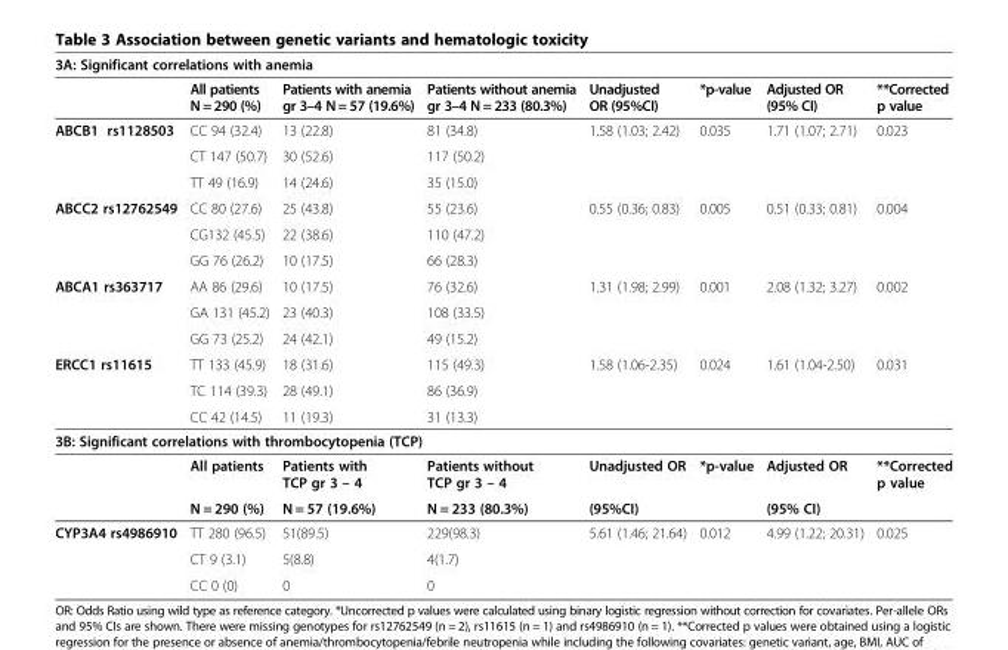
<table><thead><tr><td colspan="8">3A: Significant correlations with anemia</td></tr><tr><td></td><td>All patients N = 290 (%)</td><td>Patients with anemia gr 3–4 N = 57 (19.6%)</td><td>Patients without anemia gr 3–4 N = 233 (80.3%)</td><td>Unadjusted OR (95%CI)</td><td>*p-value</td><td>Adjusted OR (95% CI)</td><td>**Corrected p value</td></tr></thead><tbody><tr><td rowspan="3">ABCB1 rs1128503</td><td>CC 94 (32.4)</td><td>13 (22.8)</td><td>81 (34.8)</td><td rowspan="3">1.58 (1.03; 2.42)</td><td rowspan="3">0.035</td><td rowspan="3">1.71 (1.07; 2.71)</td><td>0.023</td></tr><tr><td>CT 147 (50.7)</td><td>30 (52.6)</td><td>117 (50.2)</td><td></td></tr><tr><td>TT 49 (16.9)</td><td>14 (24.6)</td><td>35 (15.0)</td><td></td></tr><tr><td rowspan="3">ABCC2 rs12762549</td><td>CC 80 (27.6)</td><td>25 (43.8)</td><td>55 (23.6)</td><td>0.55 (0.36; 0.83)</td><td>0.005</td><td>0.51 (0.33; 0.81)</td><td>0.004</td></tr><tr><td>CG132 (45.5)</td><td>22 (38.6)</td><td>110 (47.2)</td><td></td><td></td><td></td><td></td></tr><tr><td>GG 76 (26.2)</td><td>10 (17.5)</td><td>66 (28.3)</td><td></td><td></td><td></td><td></td></tr><tr><td rowspan="3">ABCA1 rs363717</td><td>AA 86 (29.6)</td><td>10 (17.5)</td><td>76 (32.6)</td><td>1.31 (1.98; 2.99)</td><td>0.001</td><td>2.08 (1.32; 3.27)</td><td>0.002</td></tr><tr><td>GA 131 (45.2)</td><td>23 (40.3)</td><td>108 (33.5)</td><td></td><td></td><td></td><td></td></tr><tr><td>GG 73 (25.2)</td><td>24 (42.1)</td><td>49 (15.2)</td><td></td><td></td><td></td><td></td></tr><tr><td rowspan="3">ERCC1 rs11615</td><td>TT 133 (45.9)</td><td>18 (31.6)</td><td>115 (49.3)</td><td>1.58 (1.06-2.35)</td><td>0.024</td><td>1.61 (1.04-2.50)</td><td>0.031</td></tr><tr><td>TC 114 (39.3)</td><td>28 (49.1)</td><td>86 (36.9)</td><td></td><td></td><td></td><td></td></tr><tr><td>CC 42 (14.5)</td><td>11 (19.3)</td><td>31 (13.3)</td><td></td><td></td><td></td><td></td></tr><tr><td colspan="8">3B: Significant correlations with thrombocytopenia (TCP)</td></tr><tr><td rowspan="2"></td><td>All patients</td><td>Patients with TCP gr 3 – 4</td><td>Patients without TCP gr 3 – 4</td><td>Unadjusted OR</td><td rowspan="2">*p-value</td><td>Adjusted OR</td><td rowspan="2">**Corrected p value</td></tr><tr><td>N = 290 (%)</td><td>N = 57 (19.6%)</td><td>N = 233 (80.3%)</td><td>(95%CI)</td><td>(95% CI)</td></tr><tr><td rowspan="3">CYP3A4 rs4986910</td><td>TT 280 (96.5)</td><td>51(89.5)</td><td>229(98.3)</td><td rowspan="3">5.61 (1.46; 21.64)</td><td rowspan="3">0.012</td><td rowspan="3">4.99 (1.22; 20.31)</td><td rowspan="3">0.025</td></tr><tr><td>CT 9 (3.1)</td><td>5(8.8)</td><td>4(1.7)</td></tr><tr><td>CC 0 (0)</td><td>0</td><td>0</td></tr></tbody></table>